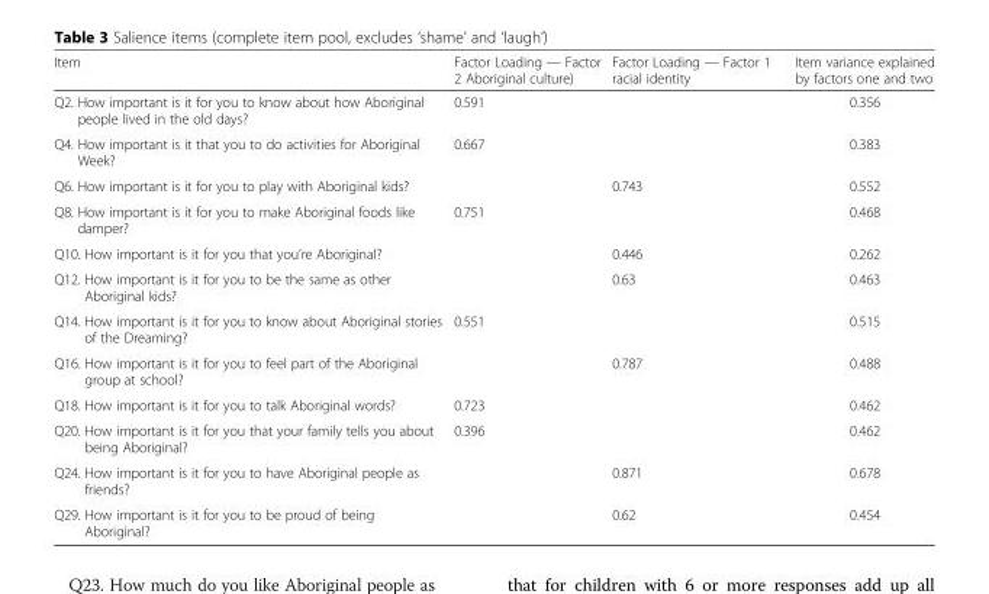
<table><thead><tr><td>Item</td><td>Factor Loading — Factor 2 Aboriginal culture)</td><td>Factor Loading — Factor 1 racial identity</td><td>Item variance explained by factors one and two</td></tr></thead><tbody><tr><td>Q2. How important is it for you to know about how Aboriginal people lived in the old days?</td><td>0.591</td><td></td><td>0.356</td></tr><tr><td>Q4. How important is it that you to do activities for Aboriginal Week?</td><td>0.667</td><td></td><td>0.383</td></tr><tr><td>Q6. How important is it for you to play with Aboriginal kids?</td><td></td><td>0.743</td><td>0.552</td></tr><tr><td>Q8. How important is it for you to make Aboriginal foods like damper?</td><td>0.751</td><td></td><td>0.468</td></tr><tr><td>Q10. How important is it for you that you’re Aboriginal?</td><td></td><td>0.446</td><td>0.262</td></tr><tr><td>Q12. How important is it for you to be the same as other Aboriginal kids?</td><td></td><td>0.63</td><td>0.463</td></tr><tr><td>Q14. How important is it for you to know about Aboriginal stories of the Dreaming?</td><td>0.551</td><td></td><td>0.515</td></tr><tr><td>Q16. How important is it for you to feel part of the Aboriginal group at school?</td><td></td><td>0.787</td><td>0.488</td></tr><tr><td>Q18. How important is it for you to talk Aboriginal words?</td><td>0.723</td><td></td><td>0.462</td></tr><tr><td>Q20. How important is it for you that your family tells you about being Aboriginal?</td><td>0.396</td><td></td><td>0.462</td></tr><tr><td>Q24. How important is it for you to have Aboriginal people as friends?</td><td></td><td>0.871</td><td>0.678</td></tr><tr><td>Q29. How important is it for you to be proud of being Aboriginal?</td><td></td><td>0.62</td><td>0.454</td></tr></tbody></table>